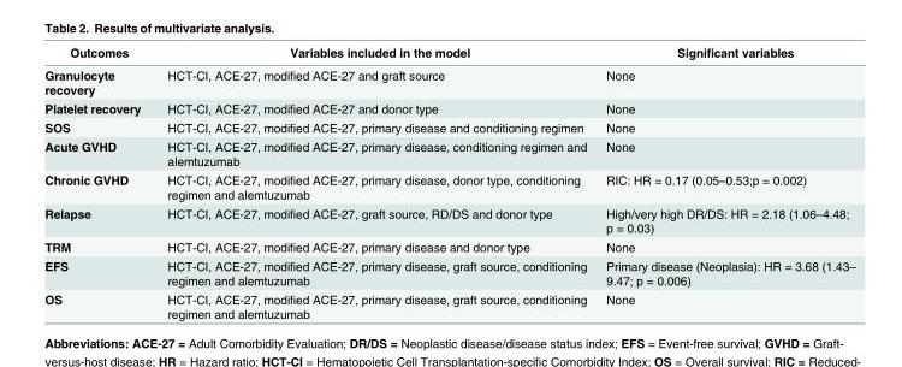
<table><thead><tr><td>Outcomes</td><td>Variables included in the model</td><td>Significant variables</td></tr></thead><tbody><tr><td>Granulocyte recovery</td><td>HCT-CI, ACE-27, modified ACE-27 and graft source</td><td>None</td></tr><tr><td>Platelet recovery</td><td>HCT-CI, ACE-27, modified ACE-27 and donor type</td><td>None</td></tr><tr><td>SOS</td><td>HCT-CI, ACE-27, modified ACE-27, primary disease and conditioning regimen</td><td>None</td></tr><tr><td>Acute GVHD</td><td>HCT-CI, ACE-27, modified ACE-27, primary disease, conditioning regimen and alemtuzumab</td><td>None</td></tr><tr><td>Chronic GVHD</td><td>HCT-CI, ACE-27, modified ACE-27, primary disease, donor type, conditioning regimen and alemtuzumab</td><td>RIC: HR = 0.17 (0.05–0.53;p = 0.002)</td></tr><tr><td>Relapse</td><td>HCT-CI, ACE-27, modified ACE-27, graft source, RD/DS and donor type</td><td>High/very high DR/DS: HR = 2.18 (1.06–4.48; p = 0.03)</td></tr><tr><td>TRM</td><td>HCT-CI, ACE-27, modified ACE-27, primary disease and donor type</td><td>None</td></tr><tr><td>EFS</td><td>HCT-CI, ACE-27, modified ACE-27, primary disease, graft source, conditioning regimen and alemtuzumab</td><td>Primary disease (Neoplasia): HR = 3.68 (1.43– 9.47; p = 0.006)</td></tr><tr><td>OS</td><td>HCT-CI, ACE-27, modified ACE-27, primary disease, graft source, conditioning regimen and alemtuzumab</td><td>None</td></tr></tbody></table>